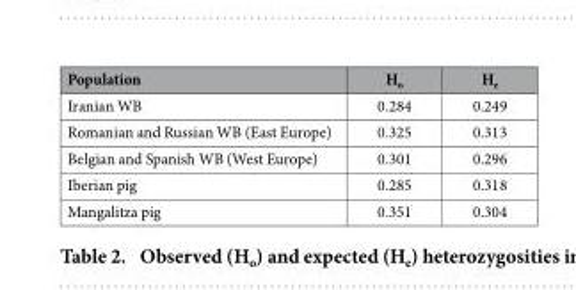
<table><thead><tr><td>Population</td><td>H<sub>o</sub></td><td>H<sub>e</sub></td></tr></thead><tbody><tr><td>Iranian WB</td><td>0.284</td><td>0.249</td></tr><tr><td>Romanian and Russian WB (East Europe)</td><td>0.325</td><td>0.313</td></tr><tr><td>Belgian and Spanish WB (West Europe)</td><td>0.301</td><td>0.296</td></tr><tr><td>Iberian pig</td><td>0.285</td><td>0.318</td></tr><tr><td>Mangalitza pig</td><td>0.351</td><td>0.304</td></tr></tbody></table>